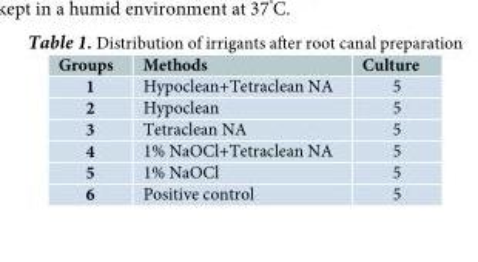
<table><thead><tr><td>Groups</td><td>Methods</td><td>Culture</td></tr></thead><tbody><tr><td>1</td><td>Hypoclean+Tetraclean NA</td><td>5</td></tr><tr><td>2</td><td>Hypoclean</td><td>5</td></tr><tr><td>3</td><td>Tetraclean NA</td><td>5</td></tr><tr><td>4</td><td>1% NaOCl+Tetraclean NA</td><td>5</td></tr><tr><td>5</td><td>1% NaOCl</td><td>5</td></tr><tr><td>6</td><td>Positive control</td><td>5</td></tr></tbody></table>